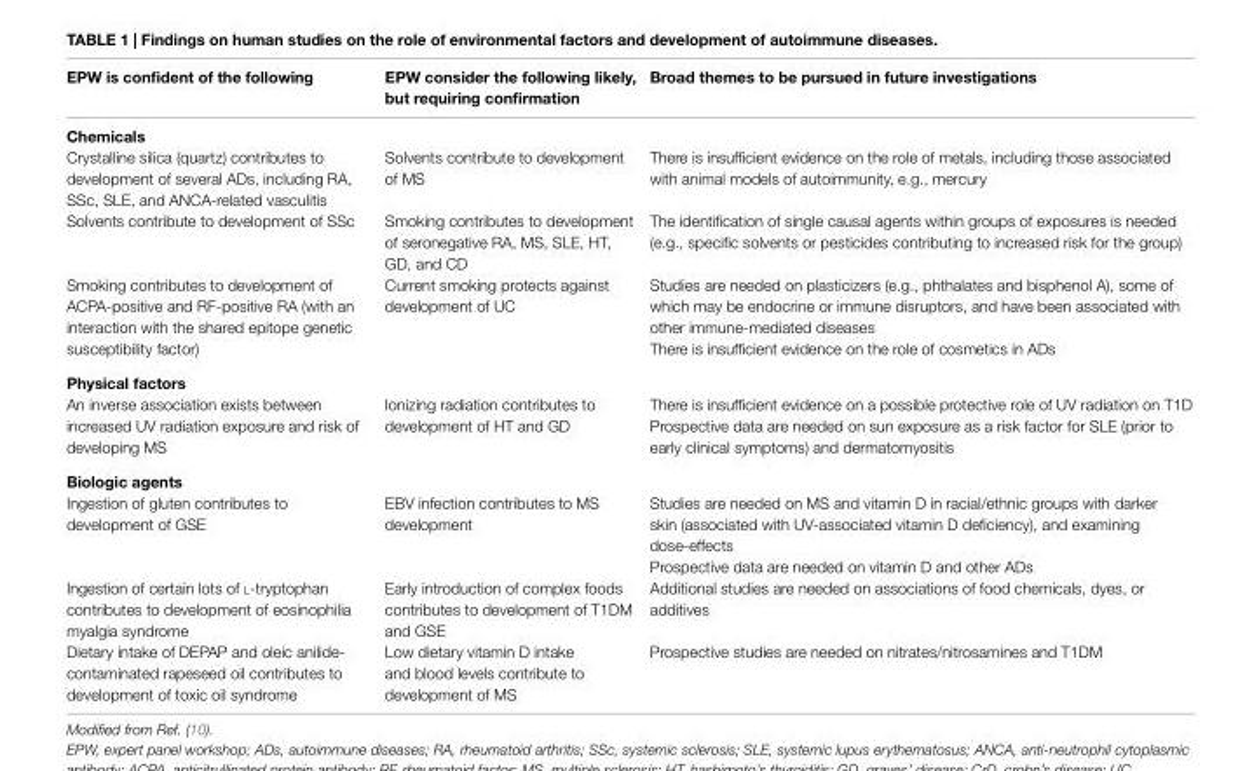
<table><thead><tr><td>ePw is confident of the following</td><td>ePw consider the following likely, but requiring confirmation</td><td>Broad themes to be pursued in future investigations</td></tr></thead><tbody><tr><td colspan="3">Chemicals</td></tr><tr><td>Crystalline silica (quartz) contributes to development of several ADs, including RA, SSc, SLE, and ANCA-related vasculitis</td><td>Solvents contribute to development of MS</td><td>There is insufficient evidence on the role of metals, including those associated with animal models of autoimmunity, e.g., mercury</td></tr><tr><td>Solvents contribute to development of SSc</td><td>Smoking contributes to development of seronegative RA, MS, SLE, HT, GD, and CD</td><td>The identification of single causal agents within groups of exposures is needed (e.g., specific solvents or pesticides contributing to increased risk for the group)</td></tr><tr><td rowspan="2">Smoking contributes to development of ACPA-positive and RF-positive RA (with an interaction with the shared epitope genetic susceptibility factor)</td><td rowspan="2">Current smoking protects against development of UC</td><td>Studies are needed on plasticizers (e.g., phthalates and bisphenol A), some of which may be endocrine or immune disruptors, and have been associated with other immune-mediated diseases</td></tr><tr><td>There is insufficient evidence on the role of cosmetics in ADs</td></tr><tr><td colspan="3">Physical factors</td></tr><tr><td rowspan="2">An inverse association exists between increased UV radiation exposure and risk of developing MS</td><td rowspan="2">Ionizing radiation contributes to development of HT and GD</td><td>There is insufficient evidence on a possible protective role of UV radiation on T1D</td></tr><tr><td>Prospective data are needed on sun exposure as a risk factor for SLE (prior to early clinical symptoms) and dermatomyositis</td></tr><tr><td colspan="3">Biologic agents</td></tr><tr><td rowspan="2">Ingestion of gluten contributes to development of GSE</td><td rowspan="2">EBV infection contributes to MS development</td><td>Studies are needed on MS and vitamin D in racial/ethnic groups with darker skin (associated with UV-associated vitamin D deficiency), and examining dose-effects</td></tr><tr><td>Prospective data are needed on vitamin D and other ADs</td></tr><tr><td>Ingestion of certain lots of l-tryptophan contributes to development of eosinophilia myalgia syndrome</td><td>Early introduction of complex foods contributes to development of T1DM and GSE</td><td>Additional studies are needed on associations of food chemicals, dyes, or additives</td></tr><tr><td>Dietary intake of DEPAP and oleic anilide- contaminated rapeseed oil contributes to development of toxic oil syndrome</td><td>Low dietary vitamin D intake and blood levels contribute to development of MS</td><td>Prospective studies are needed on nitrates/nitrosamines and T1DM</td></tr></tbody></table>